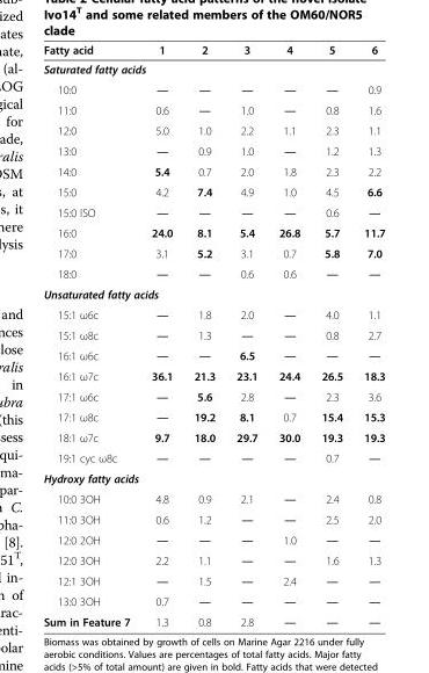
<table><thead><tr><td>Fatty acid</td><td>1</td><td>2</td><td>3</td><td>4</td><td>5</td><td>6</td></tr></thead><tbody><tr><td colspan="7">Saturated fatty acids</td></tr><tr><td>10:0</td><td>―</td><td>―</td><td>―</td><td>―</td><td>―</td><td>0.9</td></tr><tr><td>11:0</td><td>0.6</td><td>―</td><td>1.0</td><td>―</td><td>0.8</td><td>1.6</td></tr><tr><td>12:0</td><td>5.0</td><td>1.0</td><td>2.2</td><td>1.1</td><td>2.3</td><td>1.1</td></tr><tr><td>13:0</td><td>―</td><td>0.9</td><td>1.0</td><td>―</td><td>1.2</td><td>1.3</td></tr><tr><td>14:0</td><td>5.4</td><td>0.7</td><td>2.0</td><td>1.8</td><td>2.3</td><td>2.2</td></tr><tr><td>15:0</td><td>4.2</td><td>7.4</td><td>4.9</td><td>1.0</td><td>4.5</td><td>6.6</td></tr><tr><td>15:0 ISO</td><td>―</td><td>―</td><td>―</td><td>―</td><td>0.6</td><td>―</td></tr><tr><td>16:0</td><td>24.0</td><td>8.1</td><td>5.4</td><td>26.8</td><td>5.7</td><td>11.7</td></tr><tr><td>17:0</td><td>3.1</td><td>5.2</td><td>3.1</td><td>0.7</td><td>5.8</td><td>7.0</td></tr><tr><td>18:0</td><td>―</td><td>―</td><td>0.6</td><td>0.6</td><td>―</td><td>―</td></tr><tr><td colspan="7">Unsaturated fatty acids</td></tr><tr><td>15:1 ω6c</td><td>―</td><td>1.8</td><td>2.0</td><td>―</td><td>4.0</td><td>1.1</td></tr><tr><td>15:1 ω8c</td><td>―</td><td>1.3</td><td>―</td><td>―</td><td>0.8</td><td>2.7</td></tr><tr><td>16:1 ω6c</td><td>―</td><td>―</td><td>6.5</td><td>―</td><td>―</td><td>―</td></tr><tr><td>16:1 ω7c</td><td>36.1</td><td>21.3</td><td>23.1</td><td>24.4</td><td>26.5</td><td>18.3</td></tr><tr><td>17:1 ω6c</td><td>―</td><td>5.6</td><td>2.8</td><td>―</td><td>2.3</td><td>3.6</td></tr><tr><td>17:1 ω8c</td><td>―</td><td>19.2</td><td>8.1</td><td>0.7</td><td>15.4</td><td>15.3</td></tr><tr><td>18:1 ω7c</td><td>9.7</td><td>18.0</td><td>29.7</td><td>30.0</td><td>19.3</td><td>19.3</td></tr><tr><td>19:1 cyc ω8c</td><td>―</td><td>―</td><td>―</td><td>―</td><td>0.7</td><td>―</td></tr><tr><td colspan="7">Hydroxy fatty acids</td></tr><tr><td>10:0 3OH</td><td>4.8</td><td>0.9</td><td>2.1</td><td>―</td><td>2.4</td><td>0.8</td></tr><tr><td>11:0 3OH</td><td>0.6</td><td>1.2</td><td>―</td><td>―</td><td>2.5</td><td>2.0</td></tr><tr><td>12:0 2OH</td><td>―</td><td>―</td><td>―</td><td>1.0</td><td>―</td><td>―</td></tr><tr><td>12:0 3OH</td><td>2.2</td><td>1.1</td><td>―</td><td>―</td><td>1.6</td><td>1.3</td></tr><tr><td>12:1 3OH</td><td>―</td><td>1.5</td><td>―</td><td>2.4</td><td>―</td><td>―</td></tr><tr><td>13:0 3OH</td><td>0.7</td><td>―</td><td>―</td><td>―</td><td>―</td><td>―</td></tr><tr><td>Sum in Feature 7</td><td>1.3</td><td>0.8</td><td>2.8</td><td>―</td><td>―</td><td>―</td></tr></tbody></table>